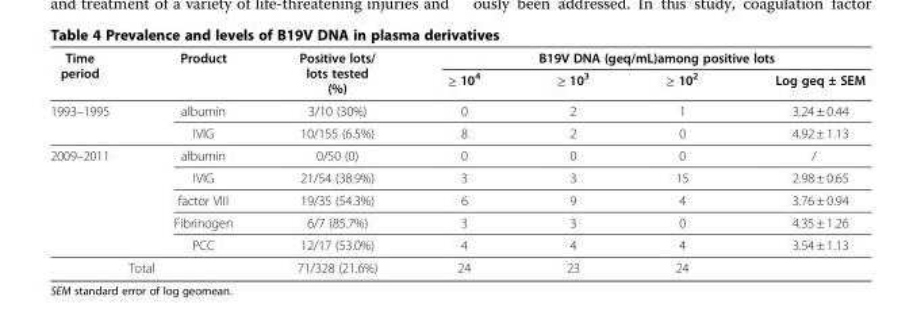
<table><thead><tr><td rowspan="2">Time period</td><td rowspan="2">Product</td><td rowspan="2">Positive lots/ lots tested (%)</td><td colspan="4">B19V DNA (geq/mL)among positive lots</td></tr><tr><td>≥ 10<sup>4</sup></td><td>≥ 10<sup>3</sup></td><td>≥ 10<sup>2</sup></td><td>Log geq ± SEM</td></tr></thead><tbody><tr><td rowspan="2">1993–1995</td><td>albumin</td><td>3/10 (30%)</td><td>0</td><td>2</td><td>1</td><td>3.24 ± 0.44</td></tr><tr><td>IVIG</td><td>10/155 (6.5%)</td><td>8</td><td>2</td><td>0</td><td>4.92 ± 1.13</td></tr><tr><td rowspan="5">2009–2011</td><td>albumin</td><td>0/50 (0)</td><td>0</td><td>0</td><td>0</td><td>/</td></tr><tr><td>IVIG</td><td>21/54 (38.9%)</td><td>3</td><td>3</td><td>15</td><td>2.98 ± 0.65</td></tr><tr><td>factor VIII</td><td>19/35 (54.3%)</td><td>6</td><td>9</td><td>4</td><td>3.76 ± 0.94</td></tr><tr><td>Fibrinogen</td><td>6/7 (85.7%)</td><td>3</td><td>3</td><td>0</td><td>4.35 ± 1.26</td></tr><tr><td>PCC</td><td>12/17 (53.0%)</td><td>4</td><td>4</td><td>4</td><td>3.54 ± 1.13</td></tr><tr><td colspan="2">Total</td><td>71/328 (21.6%)</td><td>24</td><td>23</td><td>24</td><td></td></tr></tbody></table>